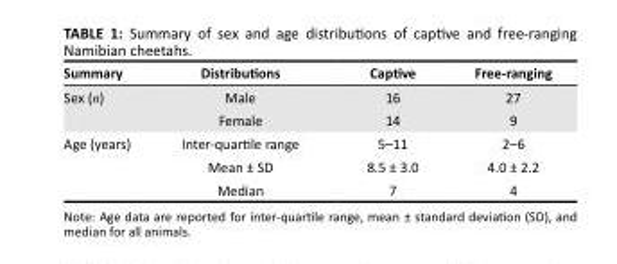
<table><thead><tr><td>Summary</td><td>Distributions</td><td>Captive</td><td>Free-ranging</td></tr></thead><tbody><tr><td rowspan="2">Sex (n)</td><td>Male</td><td>16</td><td>27</td></tr><tr><td>Female</td><td>14</td><td>9</td></tr><tr><td rowspan="3">Age (years)</td><td>Inter-quartile range</td><td>5–11</td><td>2–6</td></tr><tr><td>Mean ± SD</td><td>8.5 ± 3.0</td><td>4.0 ± 2.2</td></tr><tr><td>Median</td><td>7</td><td>4</td></tr></tbody></table>